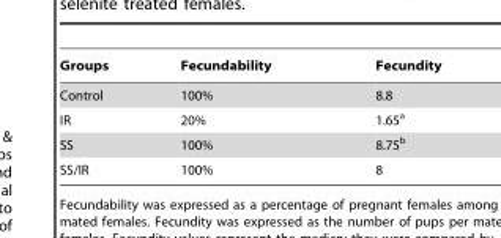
<table><thead><tr><td>Groups</td><td>Fecundability</td><td>Fecundity</td></tr></thead><tbody><tr><td>Control</td><td>100%</td><td>8.8</td></tr><tr><td>IR</td><td>20%</td><td>1.65<sup>a</sup></td></tr><tr><td>SS</td><td>100%</td><td>8.75<sup>b</sup></td></tr><tr><td>SS/IR</td><td>100%</td><td>8</td></tr></tbody></table>